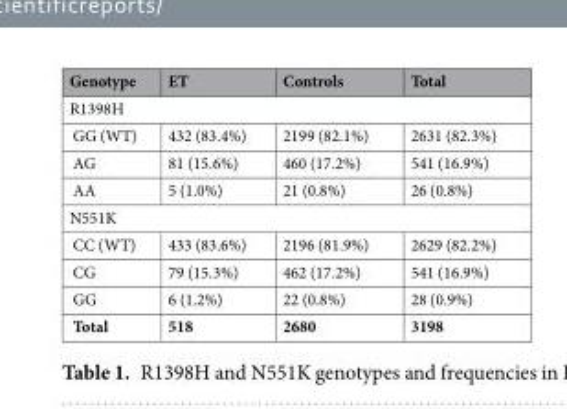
<table><thead><tr><td>Genotype</td><td>ET</td><td>Controls</td><td>Total</td></tr></thead><tbody><tr><td colspan="4">R1398H</td></tr><tr><td>GG (WT)</td><td>432 (83.4%)</td><td>2199 (82.1%)</td><td>2631 (82.3%)</td></tr><tr><td>AG</td><td>81 (15.6%)</td><td>460 (17.2%)</td><td>541 (16.9%)</td></tr><tr><td>AA</td><td>5 (1.0%)</td><td>21 (0.8%)</td><td>26 (0.8%)</td></tr><tr><td colspan="4">N551K</td></tr><tr><td>CC (WT)</td><td>433 (83.6%)</td><td>2196 (81.9%)</td><td>2629 (82.2%)</td></tr><tr><td>CG</td><td>79 (15.3%)</td><td>462 (17.2%)</td><td>541 (16.9%)</td></tr><tr><td>GG</td><td>6 (1.2%)</td><td>22 (0.8%)</td><td>28 (0.9%)</td></tr><tr><td>Total</td><td>518</td><td>2680</td><td>3198</td></tr></tbody></table>